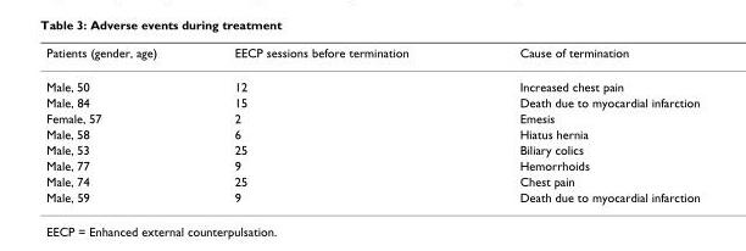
<table><thead><tr><td>Patients (gender, age)</td><td>EECP sessions before termination</td><td>Cause of termination</td></tr></thead><tbody><tr><td>Male, 50</td><td>12</td><td>Increased chest pain</td></tr><tr><td>Male, 84</td><td>15</td><td>Death due to myocardial infarction</td></tr><tr><td>Female, 57</td><td>2</td><td>Emesis</td></tr><tr><td>Male, 58</td><td>6</td><td>Hiatus hernia</td></tr><tr><td>Male, 53</td><td>25</td><td>Biliary colics</td></tr><tr><td>Male, 77</td><td>9</td><td>Hemorrhoids</td></tr><tr><td>Male, 74</td><td>25</td><td>Chest pain</td></tr><tr><td>Male, 59</td><td>9</td><td>Death due to myocardial infarction</td></tr></tbody></table>